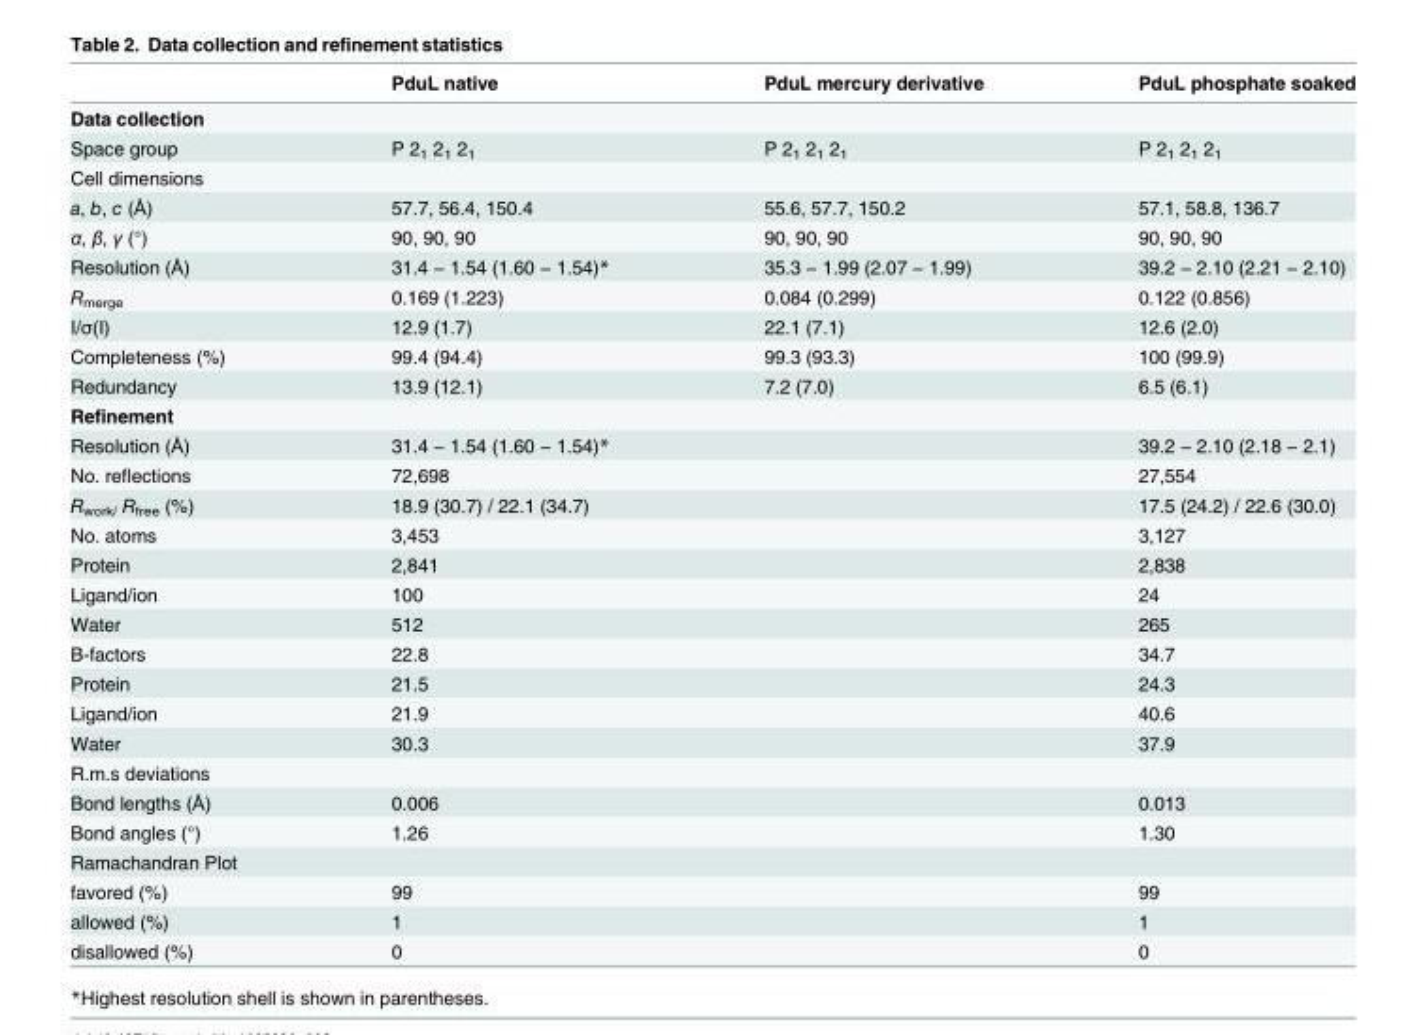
<table><thead><tr><td></td><td>PduL native</td><td>PduL mercury derivative</td><td>PduL phosphate soaked</td></tr></thead><tbody><tr><td colspan="4">Data collection</td></tr><tr><td>Space group</td><td>P 2<sub>1</sub> 2<sub>1</sub> 2<sub>1</sub></td><td>P 2<sub>1</sub> 2<sub>1</sub> 2<sub>1</sub></td><td>P 2<sub>1</sub> 2<sub>1</sub> 2<sub>1</sub></td></tr><tr><td colspan="4">Cell dimensions</td></tr><tr><td>a, b, c (Å)</td><td>57.7, 56.4, 150.4</td><td>55.6, 57.7, 150.2</td><td>57.1, 58.8, 136.7</td></tr><tr><td>α, β, γ (°)</td><td>90, 90, 90</td><td>90, 90, 90</td><td>90, 90, 90</td></tr><tr><td>Resolution (Å)</td><td>31.4 − 1.54 (1.60 − 1.54)*</td><td>35.3 − 1.99 (2.07 − 1.99)</td><td>39.2 − 2.10 (2.21 − 2.10)</td></tr><tr><td>R<sub>merge</sub></td><td>0.169 (1.223)</td><td>0.084 (0.299)</td><td>0.122 (0.856)</td></tr><tr><td>I/σ(I)</td><td>12.9 (1.7)</td><td>22.1 (7.1)</td><td>12.6 (2.0)</td></tr><tr><td>Completeness (%)</td><td>99.4 (94.4)</td><td>99.3 (93.3)</td><td>100 (99.9)</td></tr><tr><td>Redundancy</td><td>13.9 (12.1)</td><td>7.2 (7.0)</td><td>6.5 (6.1)</td></tr><tr><td colspan="4">Refinement</td></tr><tr><td>Resolution (Å)</td><td>31.4 − 1.54 (1.60 − 1.54)*</td><td></td><td>39.2 − 2.10 (2.18 − 2.1)</td></tr><tr><td>No. reflections</td><td>72,698</td><td></td><td>27,554</td></tr><tr><td>R<sub>work/</sub> R<sub>free</sub> (%)</td><td>18.9 (30.7) / 22.1 (34.7)</td><td></td><td>17.5 (24.2) / 22.6 (30.0)</td></tr><tr><td>No. atoms</td><td>3,453</td><td></td><td>3,127</td></tr><tr><td>Protein</td><td>2,841</td><td></td><td>2,838</td></tr><tr><td>Ligand/ion</td><td>100</td><td></td><td>24</td></tr><tr><td>Water</td><td>512</td><td></td><td>265</td></tr><tr><td>B-factors</td><td>22.8</td><td></td><td>34.7</td></tr><tr><td>Protein</td><td>21.5</td><td></td><td>24.3</td></tr><tr><td>Ligand/ion</td><td>21.9</td><td></td><td>40.6</td></tr><tr><td>Water</td><td>30.3</td><td></td><td>37.9</td></tr><tr><td colspan="4">R.m.s deviations</td></tr><tr><td>Bond lengths (Å)</td><td>0.006</td><td></td><td>0.013</td></tr><tr><td>Bond angles (°)</td><td>1.26</td><td></td><td>1.30</td></tr><tr><td colspan="4">Ramachandran Plot</td></tr><tr><td>favored (%)</td><td>99</td><td></td><td>99</td></tr><tr><td>allowed (%)</td><td>1</td><td></td><td>1</td></tr><tr><td>disallowed (%)</td><td>0</td><td></td><td>0</td></tr></tbody></table>